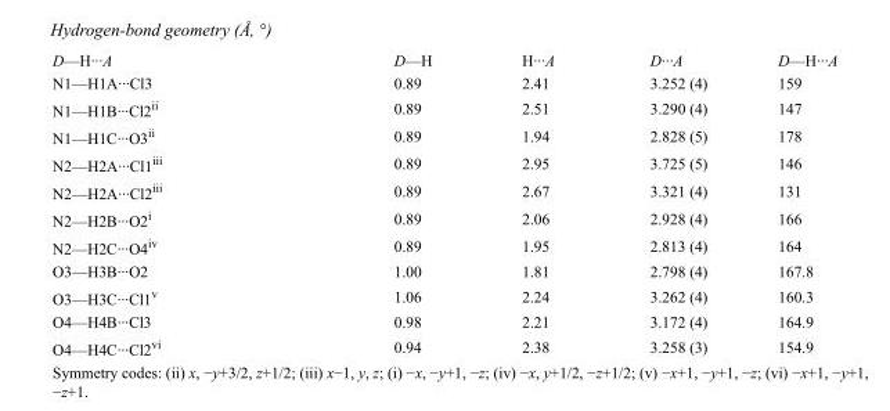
<table><tbody><tr><td>D—H···A</td><td>D—H</td><td>H···A</td><td>D···A</td><td>D—H···A</td></tr><tr><td>N1—H1A···Cl3</td><td>0.89</td><td>2.41</td><td>3.252 (4)</td><td>159</td></tr><tr><td>N1—H1B···Cl2<sup>ii</sup></td><td>0.89</td><td>2.51</td><td>3.290 (4)</td><td>147</td></tr><tr><td>N1—H1C···O3<sup>ii</sup></td><td>0.89</td><td>1.94</td><td>2.828 (5)</td><td>178</td></tr><tr><td>N2—H2A···Cl1<sup>iii</sup></td><td>0.89</td><td>2.95</td><td>3.725 (5)</td><td>146</td></tr><tr><td>N2—H2A···Cl2<sup>iii</sup></td><td>0.89</td><td>2.67</td><td>3.321 (4)</td><td>131</td></tr><tr><td>N2—H2B···O2<sup>i</sup></td><td>0.89</td><td>2.06</td><td>2.928 (4)</td><td>166</td></tr><tr><td>N2—H2C···O4<sup>iv</sup></td><td>0.89</td><td>1.95</td><td>2.813 (4)</td><td>164</td></tr><tr><td>O3—H3B···O2</td><td>1.00</td><td>1.81</td><td>2.798 (4)</td><td>167.8</td></tr><tr><td>O3—H3C···Cl1<sup>v</sup></td><td>1.06</td><td>2.24</td><td>3.262 (4)</td><td>160.3</td></tr><tr><td>O4—H4B···Cl3</td><td>0.98</td><td>2.21</td><td>3.172 (4)</td><td>164.9</td></tr><tr><td>O4—H4C···Cl2<sup>vi</sup></td><td>0.94</td><td>2.38</td><td>3.258 (3)</td><td>154.9</td></tr></tbody></table>